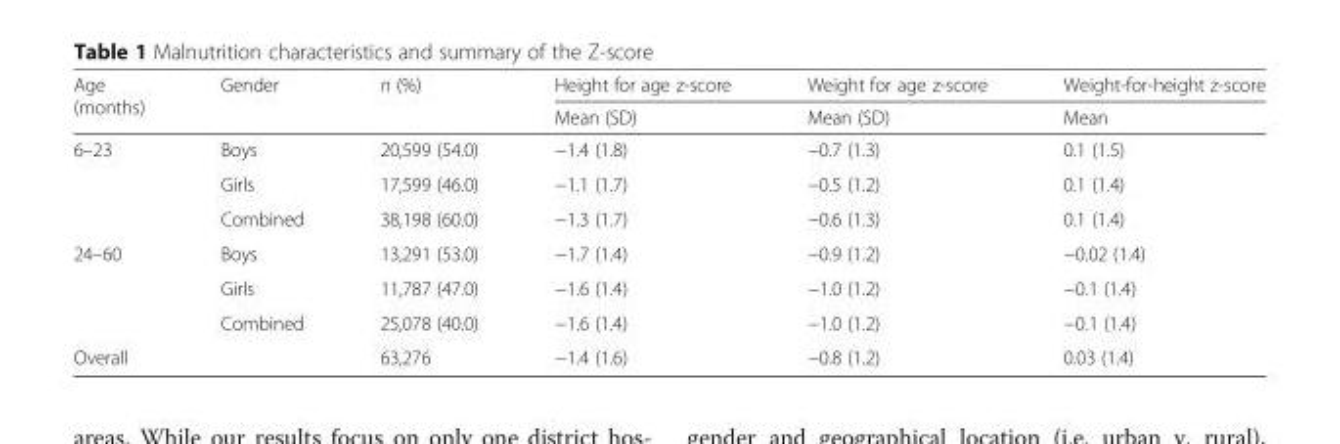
<table><thead><tr><td rowspan="2">Age (months)</td><td rowspan="2">Gender</td><td rowspan="2">n (%)</td><td rowspan="2">Height for age z-score Mean (SD)</td><td rowspan="2">Weight for age z-score Mean (SD)</td><td rowspan="2">Weight-for-height z-score Mean</td></tr><tr></tr></thead><tbody><tr><td rowspan="3">6–23</td><td>Boys</td><td>20,599 (54.0)</td><td>−1.4 (1.8)</td><td>−0.7 (1.3)</td><td>0.1 (1.5)</td></tr><tr><td>Girls</td><td>17,599 (46.0)</td><td>−1.1 (1.7)</td><td>−0.5 (1.2)</td><td>0.1 (1.4)</td></tr><tr><td>Combined</td><td>38,198 (60.0)</td><td>−1.3 (1.7)</td><td>−0.6 (1.3)</td><td>0.1 (1.4)</td></tr><tr><td rowspan="3">24–60</td><td>Boys</td><td>13,291 (53.0)</td><td>−1.7 (1.4)</td><td>−0.9 (1.2)</td><td>−0.02 (1.4)</td></tr><tr><td>Girls</td><td>11,787 (47.0)</td><td>−1.6 (1.4)</td><td>−1.0 (1.2)</td><td>−0.1 (1.4)</td></tr><tr><td>Combined</td><td>25,078 (40.0)</td><td>−1.6 (1.4)</td><td>−1.0 (1.2)</td><td>−0.1 (1.4)</td></tr><tr><td colspan="2">Overall</td><td>63,276</td><td>−1.4 (1.6)</td><td>−0.8 (1.2)</td><td>0.03 (1.4)</td></tr></tbody></table>